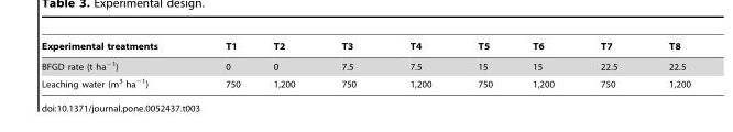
<table><thead><tr><td>Experimental treatments</td><td>T1</td><td>T2</td><td>T3</td><td>T4</td><td>T5</td><td>T6</td><td>T7</td><td>T8</td></tr></thead><tbody><tr><td>BFGD rate (t ha<sup>−1</sup>)</td><td>0</td><td>0</td><td>7.5</td><td>7.5</td><td>15</td><td>15</td><td>22.5</td><td>22.5</td></tr><tr><td>Leaching water (m<sup>3</sup> ha<sup>−1</sup>)</td><td>750</td><td>1,200</td><td>750</td><td>1,200</td><td>750</td><td>1,200</td><td>750</td><td>1,200</td></tr></tbody></table>